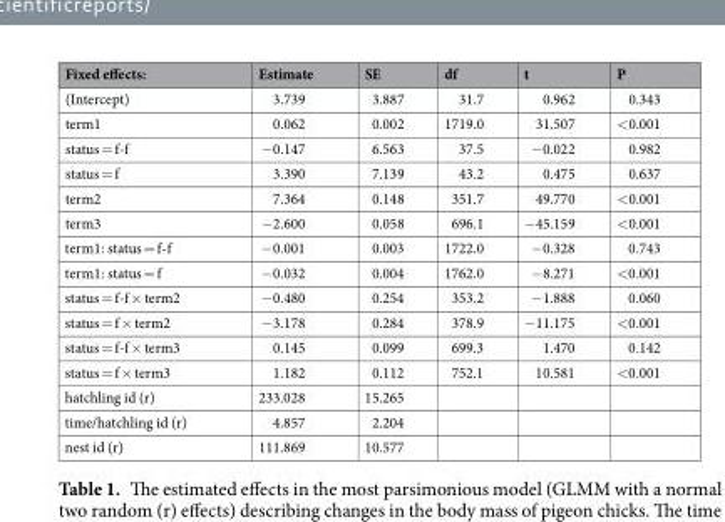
<table><thead><tr><td>Fixed effects:</td><td>Estimate</td><td>SE</td><td>df</td><td>t</td><td>P</td></tr></thead><tbody><tr><td>(Intercept)</td><td>3.739</td><td>3.887</td><td>31.7</td><td>0.962</td><td>0.343</td></tr><tr><td>term1</td><td>0.062</td><td>0.002</td><td>1719.0</td><td>31.507</td><td>&lt;0.001</td></tr><tr><td>status = f-f</td><td>−0.147</td><td>6.563</td><td>37.5</td><td>−0.022</td><td>0.982</td></tr><tr><td>status = f</td><td>3.390</td><td>7.139</td><td>43.2</td><td>0.475</td><td>0.637</td></tr><tr><td>term2</td><td>7.364</td><td>0.148</td><td>351.7</td><td>49.770</td><td>&lt;0.001</td></tr><tr><td>term3</td><td>−2.600</td><td>0.058</td><td>696.1</td><td>−45.159</td><td>&lt;0.001</td></tr><tr><td>term1: status = f-f</td><td>−0.001</td><td>0.003</td><td>1722.0</td><td>−0.328</td><td>0.743</td></tr><tr><td>term1: status = f</td><td>−0.032</td><td>0.004</td><td>1762.0</td><td>−8.271</td><td>&lt;0.001</td></tr><tr><td>status = f-f × term2</td><td>−0.480</td><td>0.254</td><td>353.2</td><td>−1.888</td><td>0.060</td></tr><tr><td>status = f × term2</td><td>−3.178</td><td>0.284</td><td>378.9</td><td>−11.175</td><td>&lt;0.001</td></tr><tr><td>status = f-f × term3</td><td>0.145</td><td>0.099</td><td>699.3</td><td>1.470</td><td>0.142</td></tr><tr><td>status = f × term3</td><td>1.182</td><td>0.112</td><td>752.1</td><td>10.581</td><td>&lt;0.001</td></tr><tr><td>hatchling id (r)</td><td>233.028</td><td>15.265</td><td></td><td></td><td></td></tr><tr><td>time/hatchling id (r)</td><td>4.857</td><td>2.204</td><td></td><td></td><td></td></tr><tr><td>nest id (r)</td><td>111.869</td><td>10.577</td><td></td><td></td><td></td></tr></tbody></table>